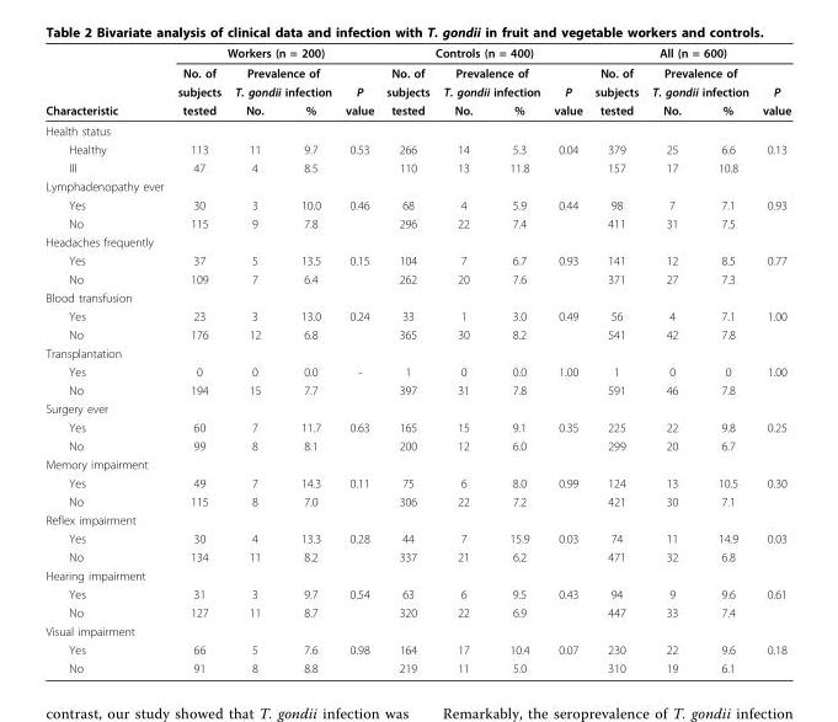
<table><thead><tr><td rowspan="4">Characteristic</td><td colspan="4">Workers (n = 200)</td><td colspan="4">Controls (n = 400)</td><td colspan="4">All (n = 600)</td></tr><tr><td rowspan="3">No. of subjects tested</td><td rowspan="2" colspan="2">Prevalence of T. gondii infection</td><td rowspan="3">P value</td><td rowspan="3">No. of subjects tested</td><td rowspan="2" colspan="2">Prevalence of T. gondii infection</td><td rowspan="3">P value</td><td rowspan="3">No. of subjects tested</td><td rowspan="2" colspan="2">Prevalence of T. gondii infection</td><td rowspan="3">P value</td></tr><tr></tr><tr><td>No.</td><td>%</td><td>No.</td><td>%</td><td>No.</td><td>%</td></tr></thead><tbody><tr><td colspan="13">Health status</td></tr><tr><td>Healthy</td><td>113</td><td>11</td><td>9.7</td><td>0.53</td><td>266</td><td>14</td><td>5.3</td><td>0.04</td><td>379</td><td>25</td><td>6.6</td><td>0.13</td></tr><tr><td>Ill</td><td>47</td><td>4</td><td>8.5</td><td></td><td>110</td><td>13</td><td>11.8</td><td></td><td>157</td><td>17</td><td>10.8</td><td></td></tr><tr><td colspan="13">Lymphadenopathy ever</td></tr><tr><td>Yes</td><td>30</td><td>3</td><td>10.0</td><td>0.46</td><td>68</td><td>4</td><td>5.9</td><td>0.44</td><td>98</td><td>7</td><td>7.1</td><td>0.93</td></tr><tr><td>No</td><td>115</td><td>9</td><td>7.8</td><td></td><td>296</td><td>22</td><td>7.4</td><td></td><td>411</td><td>31</td><td>7.5</td><td></td></tr><tr><td colspan="13">Headaches frequently</td></tr><tr><td>Yes</td><td>37</td><td>5</td><td>13.5</td><td>0.15</td><td>104</td><td>7</td><td>6.7</td><td>0.93</td><td>141</td><td>12</td><td>8.5</td><td>0.77</td></tr><tr><td>No</td><td>109</td><td>7</td><td>6.4</td><td></td><td>262</td><td>20</td><td>7.6</td><td></td><td>371</td><td>27</td><td>7.3</td><td></td></tr><tr><td colspan="13">Blood transfusion</td></tr><tr><td>Yes</td><td>23</td><td>3</td><td>13.0</td><td>0.24</td><td>33</td><td>1</td><td>3.0</td><td>0.49</td><td>56</td><td>4</td><td>7.1</td><td>1.00</td></tr><tr><td>No</td><td>176</td><td>12</td><td>6.8</td><td></td><td>365</td><td>30</td><td>8.2</td><td></td><td>541</td><td>42</td><td>7.8</td><td></td></tr><tr><td colspan="13">Transplantation</td></tr><tr><td>Yes</td><td>0</td><td>0</td><td>0.0</td><td>-</td><td>1</td><td>0</td><td>0.0</td><td>1.00</td><td>1</td><td>0</td><td>0</td><td>1.00</td></tr><tr><td>No</td><td>194</td><td>15</td><td>7.7</td><td></td><td>397</td><td>31</td><td>7.8</td><td></td><td>591</td><td>46</td><td>7.8</td><td></td></tr><tr><td colspan="13">Surgery ever</td></tr><tr><td>Yes</td><td>60</td><td>7</td><td>11.7</td><td>0.63</td><td>165</td><td>15</td><td>9.1</td><td>0.35</td><td>225</td><td>22</td><td>9.8</td><td>0.25</td></tr><tr><td>No</td><td>99</td><td>8</td><td>8.1</td><td></td><td>200</td><td>12</td><td>6.0</td><td></td><td>299</td><td>20</td><td>6.7</td><td></td></tr><tr><td colspan="13">Memory impairment</td></tr><tr><td>Yes</td><td>49</td><td>7</td><td>14.3</td><td>0.11</td><td>75</td><td>6</td><td>8.0</td><td>0.99</td><td>124</td><td>13</td><td>10.5</td><td>0.30</td></tr><tr><td>No</td><td>115</td><td>8</td><td>7.0</td><td></td><td>306</td><td>22</td><td>7.2</td><td></td><td>421</td><td>30</td><td>7.1</td><td></td></tr><tr><td colspan="13">Reflex impairment</td></tr><tr><td>Yes</td><td>30</td><td>4</td><td>13.3</td><td>0.28</td><td>44</td><td>7</td><td>15.9</td><td>0.03</td><td>74</td><td>11</td><td>14.9</td><td>0.03</td></tr><tr><td>No</td><td>134</td><td>11</td><td>8.2</td><td></td><td>337</td><td>21</td><td>6.2</td><td></td><td>471</td><td>32</td><td>6.8</td><td></td></tr><tr><td colspan="13">Hearing impairment</td></tr><tr><td>Yes</td><td>31</td><td>3</td><td>9.7</td><td>0.54</td><td>63</td><td>6</td><td>9.5</td><td>0.43</td><td>94</td><td>9</td><td>9.6</td><td>0.61</td></tr><tr><td>No</td><td>127</td><td>11</td><td>8.7</td><td></td><td>320</td><td>22</td><td>6.9</td><td></td><td>447</td><td>33</td><td>7.4</td><td></td></tr><tr><td colspan="13">Visual impairment</td></tr><tr><td>Yes</td><td>66</td><td>5</td><td>7.6</td><td>0.98</td><td>164</td><td>17</td><td>10.4</td><td>0.07</td><td>230</td><td>22</td><td>9.6</td><td>0.18</td></tr><tr><td>No</td><td>91</td><td>8</td><td>8.8</td><td></td><td>219</td><td>11</td><td>5.0</td><td></td><td>310</td><td>19</td><td>6.1</td><td></td></tr></tbody></table>